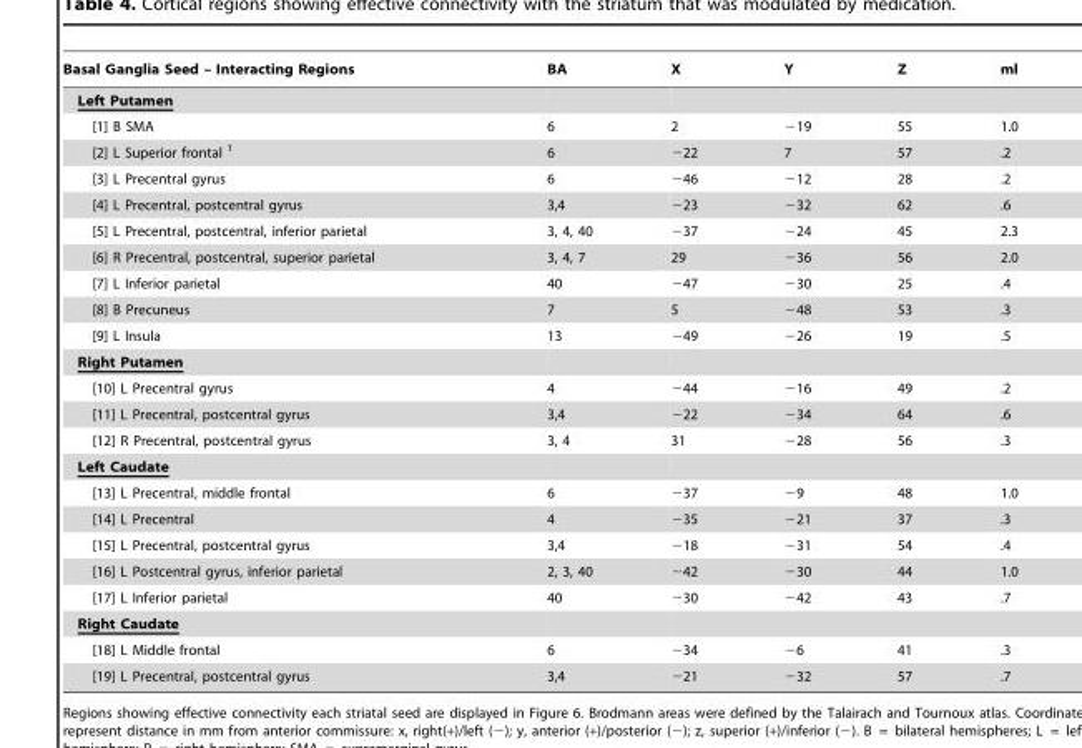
<table><thead><tr><td>Basal Ganglia Seed – Interacting Regions</td><td>BA</td><td>X</td><td>Y</td><td>Z</td><td>ml</td></tr></thead><tbody><tr><td colspan="6">Left Putamen</td></tr><tr><td>[1] B SMA</td><td>6</td><td>2</td><td>−19</td><td>55</td><td>1.0</td></tr><tr><td>[2] L Superior frontal 1</td><td>6</td><td>−22</td><td>7</td><td>57</td><td>.2</td></tr><tr><td>[3] L Precentral gyrus</td><td>6</td><td>−46</td><td>−12</td><td>28</td><td>.2</td></tr><tr><td>[4] L Precentral, postcentral gyrus</td><td>3,4</td><td>−23</td><td>−32</td><td>62</td><td>.6</td></tr><tr><td>[5] L Precentral, postcentral, inferior parietal</td><td>3, 4, 40</td><td>−37</td><td>−24</td><td>45</td><td>2.3</td></tr><tr><td>[6] R Precentral, postcentral, superior parietal</td><td>3, 4, 7</td><td>29</td><td>−36</td><td>56</td><td>2.0</td></tr><tr><td>[7] L Inferior parietal</td><td>40</td><td>−47</td><td>−30</td><td>25</td><td>.4</td></tr><tr><td>[8] B Precuneus</td><td>7</td><td>5</td><td>−48</td><td>53</td><td>.3</td></tr><tr><td>[9] L Insula</td><td>13</td><td>−49</td><td>−26</td><td>19</td><td>.5</td></tr><tr><td colspan="6">Right Putamen</td></tr><tr><td>[10] L Precentral gyrus</td><td>4</td><td>−44</td><td>−16</td><td>49</td><td>.2</td></tr><tr><td>[11] L Precentral, postcentral gyrus</td><td>3,4</td><td>−22</td><td>−34</td><td>64</td><td>.6</td></tr><tr><td>[12] R Precentral, postcentral gyrus</td><td>3, 4</td><td>31</td><td>−28</td><td>56</td><td>.3</td></tr><tr><td colspan="6">Left Caudate</td></tr><tr><td>[13] L Precentral, middle frontal</td><td>6</td><td>−37</td><td>−9</td><td>48</td><td>1.0</td></tr><tr><td>[14] L Precentral</td><td>4</td><td>−35</td><td>−21</td><td>37</td><td>.3</td></tr><tr><td>[15] L Precentral, postcentral gyrus</td><td>3,4</td><td>−18</td><td>−31</td><td>54</td><td>.4</td></tr><tr><td>[16] L Postcentral gyrus, inferior parietal</td><td>2, 3, 40</td><td>−42</td><td>−30</td><td>44</td><td>1.0</td></tr><tr><td>[17] L Inferior parietal</td><td>40</td><td>−30</td><td>−42</td><td>43</td><td>.7</td></tr><tr><td colspan="6">Right Caudate</td></tr><tr><td>[18] L Middle frontal</td><td>6</td><td>−34</td><td>−6</td><td>41</td><td>.3</td></tr><tr><td>[19] L Precentral, postcentral gyrus</td><td>3,4</td><td>−21</td><td>−32</td><td>57</td><td>.7</td></tr></tbody></table>